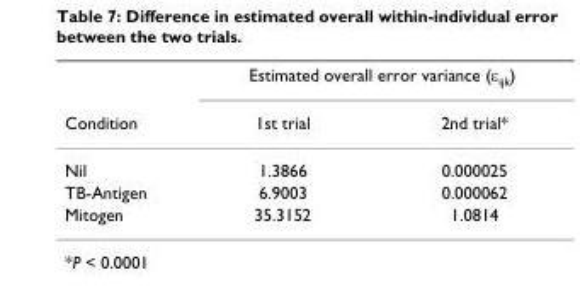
<table><thead><tr><td rowspan="2">Condition</td><td colspan="2">Estimated overall error variance (ε<sub>ijk</sub>)</td></tr><tr><td>1st trial</td><td>2nd trial*</td></tr></thead><tbody><tr><td>Nil</td><td>1.3866</td><td>0.000025</td></tr><tr><td>TB-Antigen</td><td>6.9003</td><td>0.000062</td></tr><tr><td>Mitogen</td><td>35.3152</td><td>1.0814</td></tr></tbody></table>